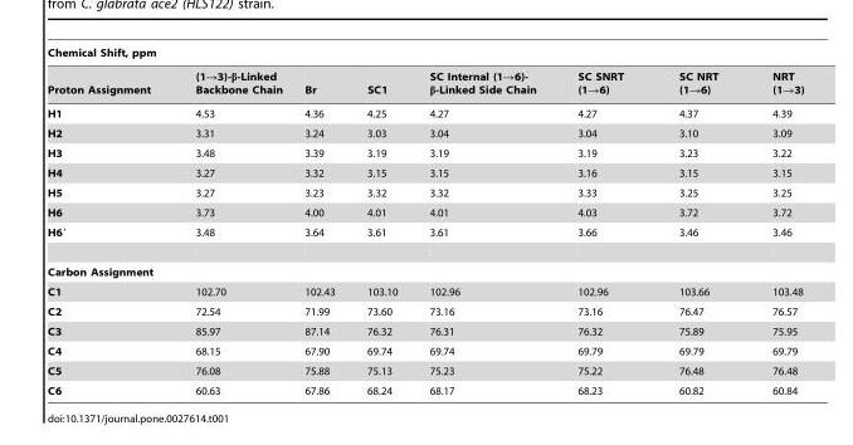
<table><thead><tr><td colspan="8">Chemical Shift, ppm</td></tr><tr><td>Proton Assignment</td><td>(1→3)-β-Linked Backbone Chain</td><td>Br</td><td>SC1</td><td>SC Internal (1→6)- β-Linked Side Chain</td><td>SC SNRT (1→6)</td><td>SC NRT (1→6)</td><td>NRT (1→3)</td></tr></thead><tbody><tr><td>H1</td><td>4.53</td><td>4.36</td><td>4.25</td><td>4.27</td><td>4.27</td><td>4.37</td><td>4.39</td></tr><tr><td>H2</td><td>3.31</td><td>3.24</td><td>3.03</td><td>3.04</td><td>3.04</td><td>3.10</td><td>3.09</td></tr><tr><td>H3</td><td>3.48</td><td>3.39</td><td>3.19</td><td>3.19</td><td>3.19</td><td>3.23</td><td>3.22</td></tr><tr><td>H4</td><td>3.27</td><td>3.32</td><td>3.15</td><td>3.15</td><td>3.16</td><td>3.15</td><td>3.15</td></tr><tr><td>H5</td><td>3.27</td><td>3.23</td><td>3.32</td><td>3.32</td><td>3.33</td><td>3.25</td><td>3.25</td></tr><tr><td>H6</td><td>3.73</td><td>4.00</td><td>4.01</td><td>4.01</td><td>4.03</td><td>3.72</td><td>3.72</td></tr><tr><td>H6′</td><td>3.48</td><td>3.64</td><td>3.61</td><td>3.61</td><td>3.66</td><td>3.46</td><td>3.46</td></tr><tr><td colspan="8">Carbon Assignment</td></tr><tr><td>C1</td><td>102.70</td><td>102.43</td><td>103.10</td><td>102.96</td><td>102.96</td><td>103.66</td><td>103.48</td></tr><tr><td>C2</td><td>72.54</td><td>71.99</td><td>73.60</td><td>73.16</td><td>73.16</td><td>76.47</td><td>76.57</td></tr><tr><td>C3</td><td>85.97</td><td>87.14</td><td>76.32</td><td>76.31</td><td>76.32</td><td>75.89</td><td>75.95</td></tr><tr><td>C4</td><td>68.15</td><td>67.90</td><td>69.74</td><td>69.74</td><td>69.79</td><td>69.79</td><td>69.79</td></tr><tr><td>C5</td><td>76.08</td><td>75.88</td><td>75.13</td><td>75.23</td><td>75.22</td><td>76.48</td><td>76.48</td></tr><tr><td>C6</td><td>60.63</td><td>67.86</td><td>68.24</td><td>68.17</td><td>68.23</td><td>60.82</td><td>60.84</td></tr></tbody></table>